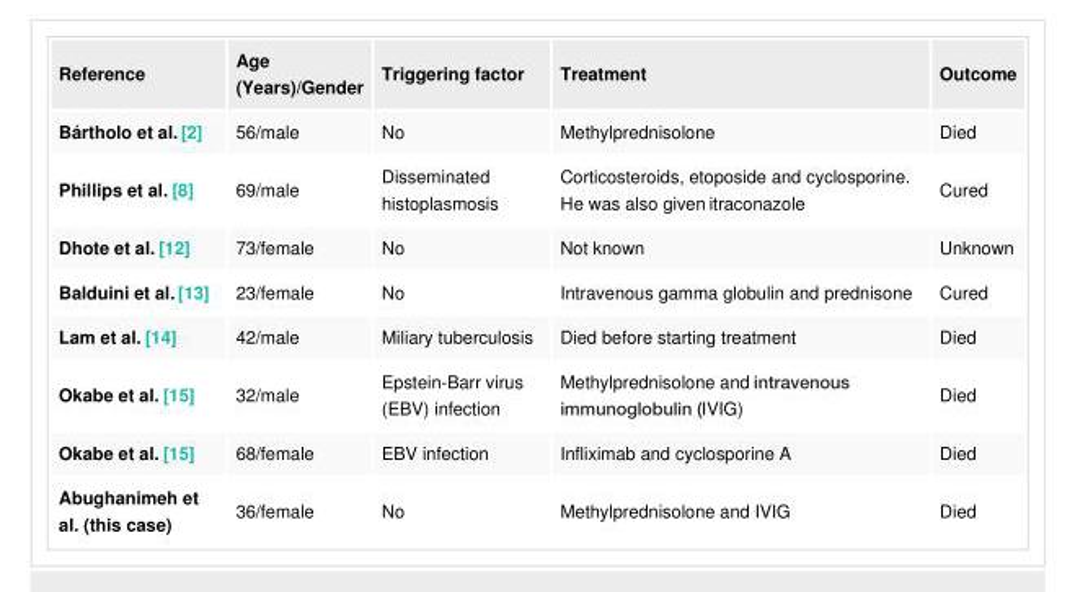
<table><tbody><tr><td>Reference</td><td>Age (Years)/Gender</td><td>Triggering factor</td><td>Treatment</td><td>Outcome</td></tr><tr><td>Bártholo et al. [2]</td><td>56/male</td><td>No</td><td>Methylprednisolone</td><td>Died</td></tr><tr><td>Phillips et al. [8]</td><td>69/male</td><td>Disseminated histoplasmosis</td><td>Corticosteroids, etoposide and cyclosporine. He was also given itraconazole</td><td>Cured</td></tr><tr><td>Dhote et al. [12]</td><td>73/female</td><td>No</td><td>Not known</td><td>Unknown</td></tr><tr><td>Balduini et al. [13]</td><td>23/female</td><td>No</td><td>Intravenous gamma globulin and prednisone</td><td>Cured</td></tr><tr><td>Lam et al. [14]</td><td>42/male</td><td>Miliary tuberculosis</td><td>Died before starting treatment</td><td>Died</td></tr><tr><td>Okabe et al. [15]</td><td>32/male</td><td>Epstein-Barr virus (EBV) infection</td><td>Methylprednisolone and intravenous immunoglobulin (IVIG)</td><td>Died</td></tr><tr><td>Okabe et al. [15]</td><td>68/female</td><td>EBV infection</td><td>Infliximab and cyclosporine A</td><td>Died</td></tr><tr><td>Abughanimeh et al. (this case)</td><td>36/female</td><td>No</td><td>Methylprednisolone and IVIG</td><td>Died</td></tr></tbody></table>